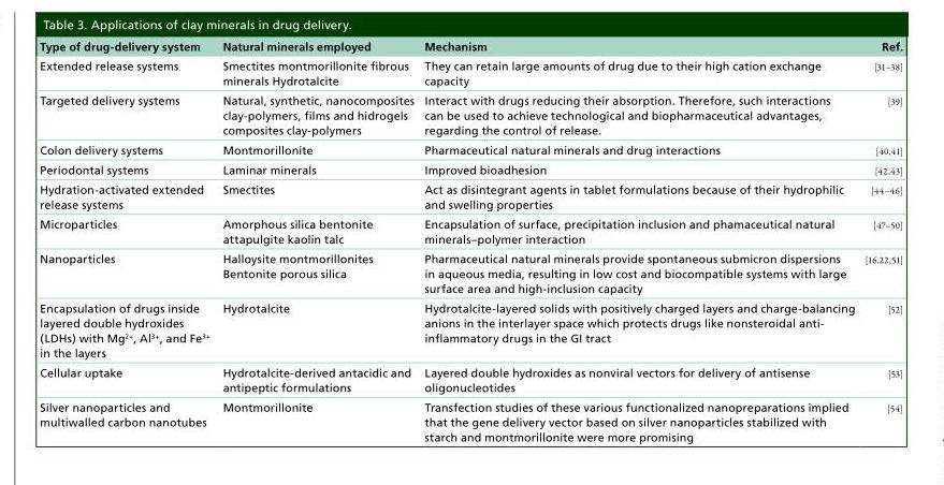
<table><thead><tr><td>Type of drug-delivery system</td><td>Natural minerals employed</td><td>Mechanism</td><td>Ref.</td></tr></thead><tbody><tr><td>Extended release systems</td><td>Smectites montmorillonite fibrous minerals Hydrotalcite</td><td>They can retain large amounts of drug due to their high cation exchange capacity</td><td>[31–38]</td></tr><tr><td>Targeted delivery systems</td><td>Natural, synthetic, nanocomposites clay-polymers, films and hidrogels composites clay-polymers</td><td>Interact with drugs reducing their absorption. Therefore, such interactions can be used to achieve technological and biopharmaceutical advantages, regarding the control of release.</td><td>[39]</td></tr><tr><td>Colon delivery systems</td><td>Montmorillonite</td><td>Pharmaceutical natural minerals and drug interactions</td><td>[40,41]</td></tr><tr><td>Periodontal systems</td><td>Laminar minerals</td><td>Improved bioadhesion</td><td>[42,43]</td></tr><tr><td>Hydration-activated extended release systems</td><td>Smectites</td><td>Act as disintegrant agents in tablet formulations because of their hydrophilic and swelling properties</td><td>[44–46]</td></tr><tr><td>Microparticles</td><td>Amorphous silica bentonite attapulgite kaolin talc</td><td>Encapsulation of surface, precipitation inclusion and phamaceutical natural minerals–polymer interaction</td><td>[47–50]</td></tr><tr><td>Nanoparticles</td><td>Halloysite montmorillonites Bentonite porous silica</td><td>Pharmaceutical natural minerals provide spontaneous submicron dispersions in aqueous media, resulting in low cost and biocompatible systems with large surface area and high-inclusion capacity</td><td>[16,22,51]</td></tr><tr><td>Encapsulation of drugs inside layered double hydroxides (LDHs) with Mg2+, Al3+, and Fe3+ in the layers</td><td>Hydrotalcite</td><td>Hydrotalcite-layered solids with positively charged layers and charge-balancing anions in the interlayer space which protects drugs like nonsteroidal anti- inflammatory drugs in the GI tract</td><td>[52]</td></tr><tr><td>Cellular uptake</td><td>Hydrotalcite-derived antacidic and antipeptic formulations</td><td>Layered double hydroxides as nonviral vectors for delivery of antisense oligonucleotides</td><td>[53]</td></tr><tr><td>Silver nanoparticles and multiwalled carbon nanotubes</td><td>Montmorillonite</td><td>Transfection studies of these various functionalized nanopreparations implied that the gene delivery vector based on silver nanoparticles stabilized with starch and montmorillonite were more promising</td><td>[54]</td></tr></tbody></table>